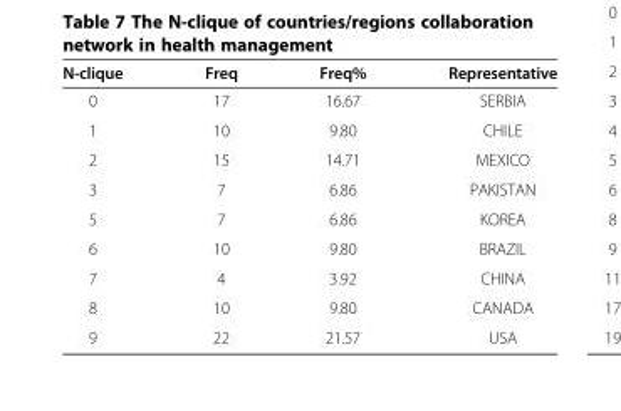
<table><thead><tr><td>N-clique</td><td>Freq</td><td>Freq%</td><td>Representative</td></tr></thead><tbody><tr><td>0</td><td>17</td><td>16.67</td><td>SERBIA</td></tr><tr><td>1</td><td>10</td><td>9.80</td><td>CHILE</td></tr><tr><td>2</td><td>15</td><td>14.71</td><td>MEXICO</td></tr><tr><td>3</td><td>7</td><td>6.86</td><td>PAKISTAN</td></tr><tr><td>5</td><td>7</td><td>6.86</td><td>KOREA</td></tr><tr><td>6</td><td>10</td><td>9.80</td><td>BRAZIL</td></tr><tr><td>7</td><td>4</td><td>3.92</td><td>CHINA</td></tr><tr><td>8</td><td>10</td><td>9.80</td><td>CANADA</td></tr><tr><td>9</td><td>22</td><td>21.57</td><td>USA</td></tr></tbody></table>